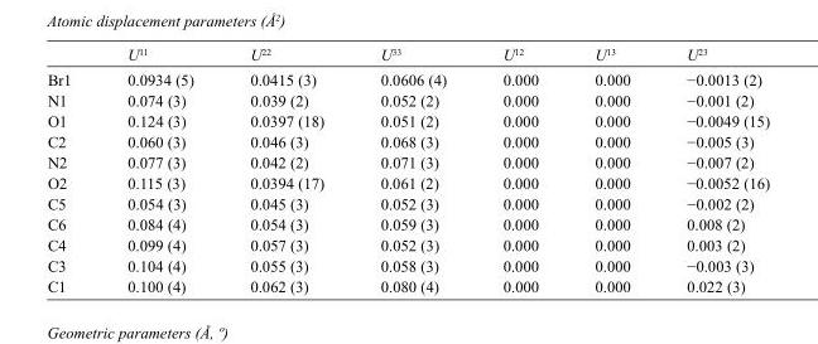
<table><thead><tr><td></td><td>U<sup>11</sup></td><td>U<sup>22</sup></td><td>U<sup>33</sup></td><td>U<sup>12</sup></td><td>U<sup>13</sup></td><td>U<sup>23</sup></td></tr></thead><tbody><tr><td>Br1</td><td>0.0934 (5)</td><td>0.0415 (3)</td><td>0.0606 (4)</td><td>0.000</td><td>0.000</td><td>−0.0013 (2)</td></tr><tr><td>N1</td><td>0.074 (3)</td><td>0.039 (2)</td><td>0.052 (2)</td><td>0.000</td><td>0.000</td><td>−0.001 (2)</td></tr><tr><td>O1</td><td>0.124 (3)</td><td>0.0397 (18)</td><td>0.051 (2)</td><td>0.000</td><td>0.000</td><td>−0.0049 (15)</td></tr><tr><td>C2</td><td>0.060 (3)</td><td>0.046 (3)</td><td>0.068 (3)</td><td>0.000</td><td>0.000</td><td>−0.005 (3)</td></tr><tr><td>N2</td><td>0.077 (3)</td><td>0.042 (2)</td><td>0.071 (3)</td><td>0.000</td><td>0.000</td><td>−0.007 (2)</td></tr><tr><td>O2</td><td>0.115 (3)</td><td>0.0394 (17)</td><td>0.061 (2)</td><td>0.000</td><td>0.000</td><td>−0.0052 (16)</td></tr><tr><td>C5</td><td>0.054 (3)</td><td>0.045 (3)</td><td>0.052 (3)</td><td>0.000</td><td>0.000</td><td>−0.002 (2)</td></tr><tr><td>C6</td><td>0.084 (4)</td><td>0.054 (3)</td><td>0.059 (3)</td><td>0.000</td><td>0.000</td><td>0.008 (2)</td></tr><tr><td>C4</td><td>0.099 (4)</td><td>0.057 (3)</td><td>0.052 (3)</td><td>0.000</td><td>0.000</td><td>0.003 (2)</td></tr><tr><td>C3</td><td>0.104 (4)</td><td>0.055 (3)</td><td>0.058 (3)</td><td>0.000</td><td>0.000</td><td>−0.003 (3)</td></tr><tr><td>C1</td><td>0.100 (4)</td><td>0.062 (3)</td><td>0.080 (4)</td><td>0.000</td><td>0.000</td><td>0.022 (3)</td></tr></tbody></table>